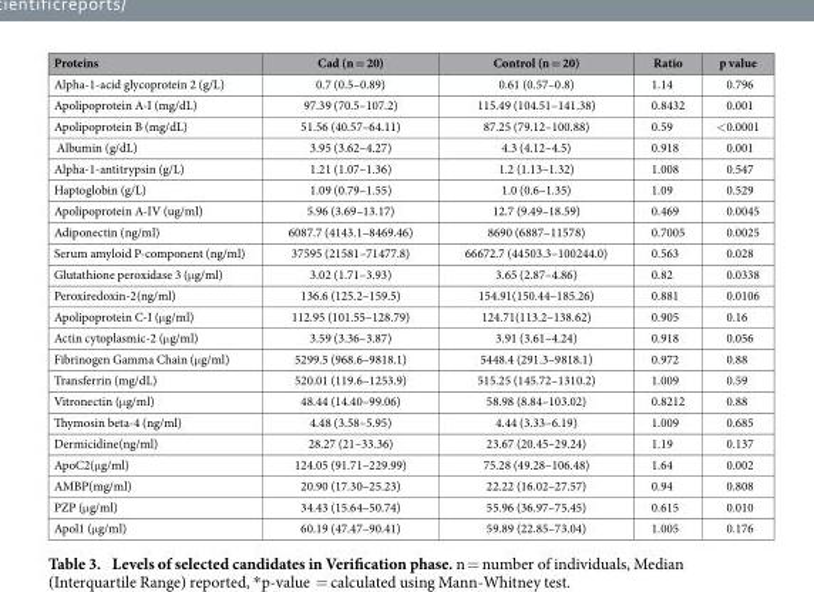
<table><thead><tr><td>Proteins</td><td>Cad (n = 20)</td><td>Control (n = 20)</td><td>Ratio</td><td>p value</td></tr></thead><tbody><tr><td>Alpha-1-acid glycoprotein 2 (g/L)</td><td>0.7 (0.5–0.89)</td><td>0.61 (0.57–0.8)</td><td>1.14</td><td>0.796</td></tr><tr><td>Apolipoprotein A-I (mg/dL)</td><td>97.39 (70.5–107.2)</td><td>115.49 (104.51–141.38)</td><td>0.8432</td><td>0.001</td></tr><tr><td>Apolipoprotein B (mg/dL)</td><td>51.56 (40.57–64.11)</td><td>87.25 (79.12–100.88)</td><td>0.59</td><td>&lt; 0.0001</td></tr><tr><td>Albumin (g/dL)</td><td>3.95 (3.62–4.27)</td><td>4.3 (4.12–4.5)</td><td>0.918</td><td>0.001</td></tr><tr><td>Alpha-1-antitrypsin (g/L)</td><td>1.21 (1.07–1.36)</td><td>1.2 (1.13–1.32)</td><td>1.008</td><td>0.547</td></tr><tr><td>Haptoglobin (g/L)</td><td>1.09 (0.79–1.55)</td><td>1.0 (0.6–1.35)</td><td>1.09</td><td>0.529</td></tr><tr><td>Apolipoprotein A-IV (ug/ml)</td><td>5.96 (3.69–13.17)</td><td>12.7 (9.49–18.59)</td><td>0.469</td><td>0.0045</td></tr><tr><td>Adiponectin (ng/ml)</td><td>6087.7 (4143.1–8469.46)</td><td>8690 (6887–11578)</td><td>0.7005</td><td>0.0025</td></tr><tr><td>Serum amyloid P-component (ng/ml)</td><td>37595 (21581–71477.8)</td><td>66672.7 (44503.3–100244.0)</td><td>0.563</td><td>0.028</td></tr><tr><td>Glutathione peroxidase 3 (μ g/ml)</td><td>3.02 (1.71–3.93)</td><td>3.65 (2.87–4.86)</td><td>0.82</td><td>0.0338</td></tr><tr><td>Peroxiredoxin-2(ng/ml)</td><td>136.6 (125.2–159.5)</td><td>154.91(150.44–185.26)</td><td>0.881</td><td>0.0106</td></tr><tr><td>Apolipoprotein C-I (μ g/ml)</td><td>112.95 (101.55–128.79)</td><td>124.71(113.2–138.62)</td><td>0.905</td><td>0.16</td></tr><tr><td>Actin cytoplasmic-2 (μ g/ml)</td><td>3.59 (3.36–3.87)</td><td>3.91 (3.61–4.24)</td><td>0.918</td><td>0.056</td></tr><tr><td>Fibrinogen Gamma Chain (μ g/ml)</td><td>5299.5 (968.6–9818.1)</td><td>5448.4 (291.3–9818.1)</td><td>0.972</td><td>0.88</td></tr><tr><td>Transferrin (mg/dL)</td><td>520.01 (119.6–1253.9)</td><td>515.25 (145.72–1310.2)</td><td>1.009</td><td>0.59</td></tr><tr><td>Vitronectin (μ g/ml)</td><td>48.44 (14.40–99.06)</td><td>58.98 (8.84–103.02)</td><td>0.8212</td><td>0.88</td></tr><tr><td>Thymosin beta-4 (ng/ml)</td><td>4.48 (3.58–5.95)</td><td>4.44 (3.33–6.19)</td><td>1.009</td><td>0.685</td></tr><tr><td>Dermicidine(ng/ml)</td><td>28.27 (21–33.36)</td><td>23.67 (20.45–29.24)</td><td>1.19</td><td>0.137</td></tr><tr><td>ApoC2(μ g/ml)</td><td>124.05 (91.71–229.99)</td><td>75.28 (49.28–106.48)</td><td>1.64</td><td>0.002</td></tr><tr><td>AMBP(mg/ml)</td><td>20.90 (17.30–25.23)</td><td>22.22 (16.02–27.57)</td><td>0.94</td><td>0.808</td></tr><tr><td>PZP (μ g/ml)</td><td>34.43 (15.64–50.74)</td><td>55.96 (36.97–75.45)</td><td>0.615</td><td>0.010</td></tr><tr><td>Apol1 (μ g/ml)</td><td>60.19 (47.47–90.41)</td><td>59.89 (22.85–73.04)</td><td>1.005</td><td>0.176</td></tr></tbody></table>